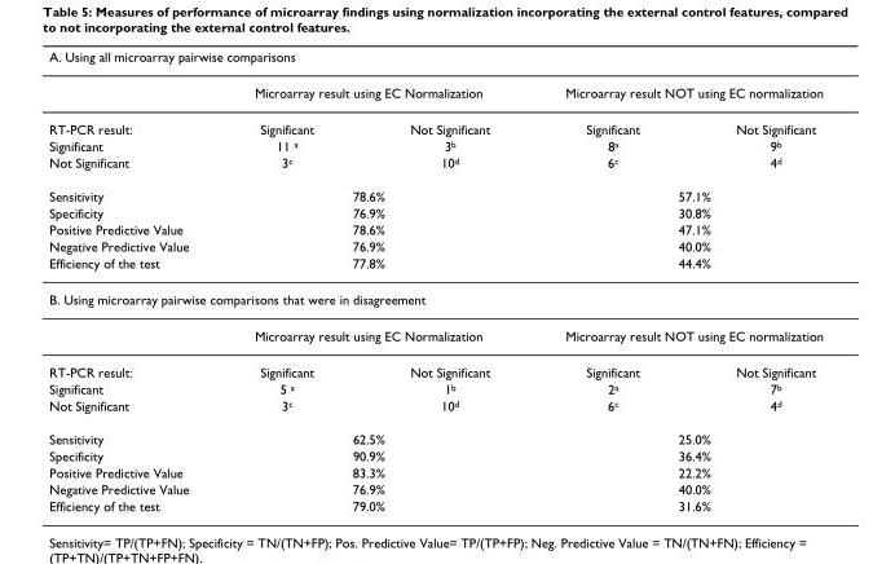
<table><thead><tr><td colspan="5">A. Using all microarray pairwise comparisons</td></tr><tr><td rowspan="2">RT-PCR result:</td><td colspan="2">Microarray result using EC Normalization</td><td colspan="2">Microarray result NOT using EC normalization</td></tr><tr><td>Significant</td><td>Not Significant</td><td>Significant</td><td>Not Significant</td></tr></thead><tbody><tr><td>Significant</td><td>11 a</td><td>3b</td><td>8a</td><td>9b</td></tr><tr><td>Not Significant</td><td>3c</td><td>10d</td><td>6c</td><td>4d</td></tr><tr><td>Sensitivity</td><td colspan="2">78.6%</td><td colspan="2">57.1%</td></tr><tr><td>Specificity</td><td colspan="2">76.9%</td><td colspan="2">30.8%</td></tr><tr><td>Positive Predictive Value</td><td colspan="2">78.6%</td><td colspan="2">47.1%</td></tr><tr><td>Negative Predictive Value</td><td colspan="2">76.9%</td><td colspan="2">40.0%</td></tr><tr><td>Efficiency of the test</td><td colspan="2">77.8%</td><td colspan="2">44.4%</td></tr><tr><td colspan="5">B. Using microarray pairwise comparisons that were in disagreement</td></tr><tr><td></td><td colspan="2">Microarray result using EC Normalization</td><td colspan="2">Microarray result NOT using EC normalization</td></tr><tr><td>RT-PCR result:</td><td>Significant</td><td>Not Significant</td><td>Significant</td><td>Not Significant</td></tr><tr><td>Significant</td><td>5 a</td><td>1b</td><td>2a</td><td>7b</td></tr><tr><td>Not Significant</td><td>3c</td><td>10d</td><td>6c</td><td>4d</td></tr><tr><td>Sensitivity</td><td colspan="2">62.5%</td><td colspan="2">25.0%</td></tr><tr><td>Specificity</td><td colspan="2">90.9%</td><td colspan="2">36.4%</td></tr><tr><td>Positive Predictive Value</td><td colspan="2">83.3%</td><td colspan="2">22.2%</td></tr><tr><td>Negative Predictive Value</td><td colspan="2">76.9%</td><td colspan="2">40.0%</td></tr><tr><td>Efficiency of the test</td><td colspan="2">79.0%</td><td colspan="2">31.6%</td></tr></tbody></table>